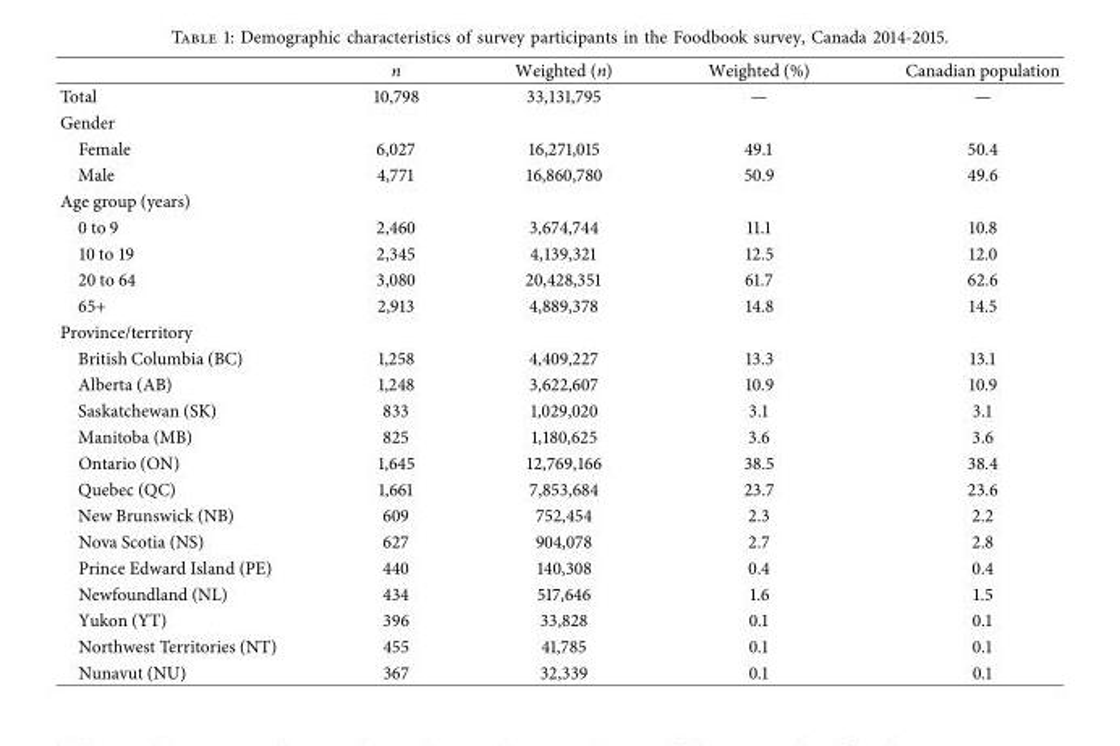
<table><thead><tr><td></td><td>n</td><td>Weighted (n)</td><td>Weighted (%)</td><td>Canadian population</td></tr></thead><tbody><tr><td>Total</td><td>10,798</td><td>33,131,795</td><td>—</td><td>—</td></tr><tr><td colspan="5">Gender</td></tr><tr><td>Female</td><td>6,027</td><td>16,271,015</td><td>49.1</td><td>50.4</td></tr><tr><td>Male</td><td>4,771</td><td>16,860,780</td><td>50.9</td><td>49.6</td></tr><tr><td colspan="5">Age group (years)</td></tr><tr><td>0 to 9</td><td>2,460</td><td>3,674,744</td><td>11.1</td><td>10.8</td></tr><tr><td>10 to 19</td><td>2,345</td><td>4,139,321</td><td>12.5</td><td>12.0</td></tr><tr><td>20 to 64</td><td>3,080</td><td>20,428,351</td><td>61.7</td><td>62.6</td></tr><tr><td>65+</td><td>2,913</td><td>4,889,378</td><td>14.8</td><td>14.5</td></tr><tr><td colspan="5">Province/territory</td></tr><tr><td>British Columbia (BC)</td><td>1,258</td><td>4,409,227</td><td>13.3</td><td>13.1</td></tr><tr><td>Alberta (AB)</td><td>1,248</td><td>3,622,607</td><td>10.9</td><td>10.9</td></tr><tr><td>Saskatchewan (SK)</td><td>833</td><td>1,029,020</td><td>3.1</td><td>3.1</td></tr><tr><td>Manitoba (MB)</td><td>825</td><td>1,180,625</td><td>3.6</td><td>3.6</td></tr><tr><td>Ontario (ON)</td><td>1,645</td><td>12,769,166</td><td>38.5</td><td>38.4</td></tr><tr><td>Quebec (QC)</td><td>1,661</td><td>7,853,684</td><td>23.7</td><td>23.6</td></tr><tr><td>New Brunswick (NB)</td><td>609</td><td>752,454</td><td>2.3</td><td>2.2</td></tr><tr><td>Nova Scotia (NS)</td><td>627</td><td>904,078</td><td>2.7</td><td>2.8</td></tr><tr><td>Prince Edward Island (PE)</td><td>440</td><td>140,308</td><td>0.4</td><td>0.4</td></tr><tr><td>Newfoundland (NL)</td><td>434</td><td>517,646</td><td>1.6</td><td>1.5</td></tr><tr><td>Yukon (YT)</td><td>396</td><td>33,828</td><td>0.1</td><td>0.1</td></tr><tr><td>Northwest Territories (NT)</td><td>455</td><td>41,785</td><td>0.1</td><td>0.1</td></tr><tr><td>Nunavut (NU)</td><td>367</td><td>32,339</td><td>0.1</td><td>0.1</td></tr></tbody></table>